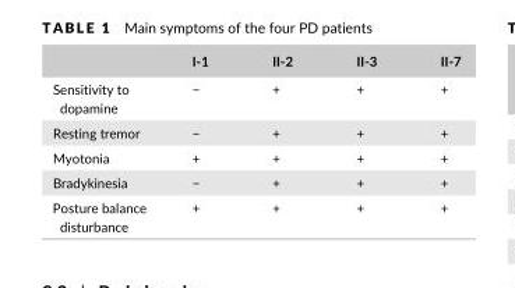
<table><thead><tr><td></td><td>I- 1</td><td>II- 2</td><td>II- 3</td><td>II- 7</td></tr></thead><tbody><tr><td>Sensitivity to dopamine</td><td>−</td><td>+</td><td>+</td><td>+</td></tr><tr><td>Resting tremor</td><td>−</td><td>+</td><td>+</td><td>+</td></tr><tr><td>Myotonia</td><td>+</td><td>+</td><td>+</td><td>+</td></tr><tr><td>Bradykinesia</td><td>−</td><td>+</td><td>+</td><td>+</td></tr><tr><td>Posture balance disturbance</td><td>+</td><td>+</td><td>+</td><td>+</td></tr></tbody></table>